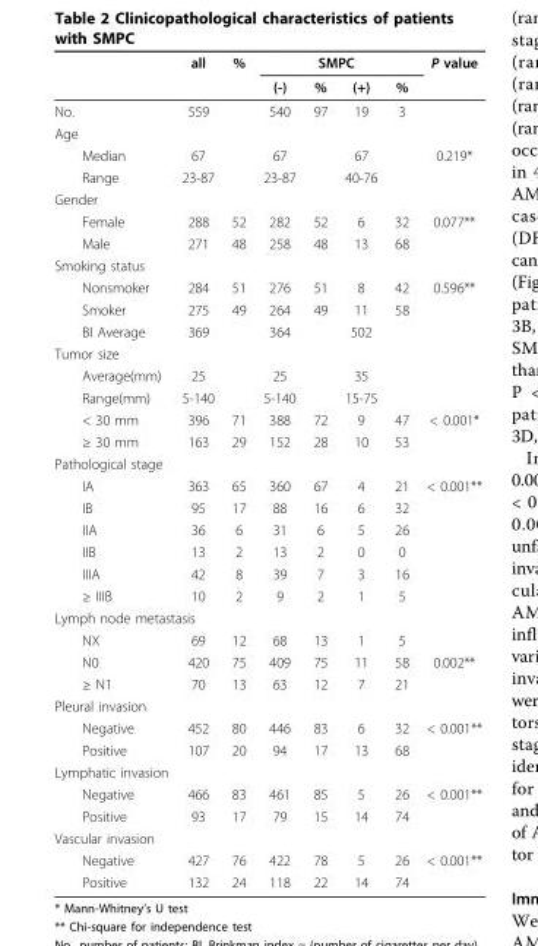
<table><thead><tr><td rowspan="2"></td><td rowspan="2">all</td><td rowspan="2">%</td><td colspan="4">SMPC</td><td rowspan="2">P value</td></tr><tr><td>(-)</td><td>%</td><td>(+)</td><td>%</td></tr></thead><tbody><tr><td>No.</td><td>559</td><td></td><td>540</td><td>97</td><td>19</td><td>3</td><td></td></tr><tr><td colspan="8">Age</td></tr><tr><td>Median</td><td>67</td><td></td><td>67</td><td></td><td>67</td><td></td><td>0.219*</td></tr><tr><td>Range</td><td>23-87</td><td></td><td>23-87</td><td></td><td>40-76</td><td></td><td></td></tr><tr><td colspan="8">Gender</td></tr><tr><td>Female</td><td>288</td><td>52</td><td>282</td><td>52</td><td>6</td><td>32</td><td>0.077**</td></tr><tr><td>Male</td><td>271</td><td>48</td><td>258</td><td>48</td><td>13</td><td>68</td><td></td></tr><tr><td colspan="8">Smoking status</td></tr><tr><td>Nonsmoker</td><td>284</td><td>51</td><td>276</td><td>51</td><td>8</td><td>42</td><td>0.596**</td></tr><tr><td>Smoker</td><td>275</td><td>49</td><td>264</td><td>49</td><td>11</td><td>58</td><td></td></tr><tr><td>BI Average</td><td>369</td><td></td><td>364</td><td></td><td>502</td><td></td><td></td></tr><tr><td colspan="8">Tumor size</td></tr><tr><td>Average(mm)</td><td>25</td><td></td><td>25</td><td></td><td>35</td><td></td><td></td></tr><tr><td>Range(mm)</td><td>5-140</td><td></td><td>5-140</td><td></td><td>15-75</td><td></td><td></td></tr><tr><td>&lt; 30 mm</td><td>396</td><td>71</td><td>388</td><td>72</td><td>9</td><td>47</td><td>&lt; 0.001*</td></tr><tr><td>≥ 30 mm</td><td>163</td><td>29</td><td>152</td><td>28</td><td>10</td><td>53</td><td></td></tr><tr><td colspan="8">Pathological stage</td></tr><tr><td>IA</td><td>363</td><td>65</td><td>360</td><td>67</td><td>4</td><td>21</td><td>&lt; 0.001**</td></tr><tr><td>IB</td><td>95</td><td>17</td><td>88</td><td>16</td><td>6</td><td>32</td><td></td></tr><tr><td>IIA</td><td>36</td><td>6</td><td>31</td><td>6</td><td>5</td><td>26</td><td></td></tr><tr><td>IIB</td><td>13</td><td>2</td><td>13</td><td>2</td><td>0</td><td>0</td><td></td></tr><tr><td>IIIA</td><td>42</td><td>8</td><td>39</td><td>7</td><td>3</td><td>16</td><td></td></tr><tr><td>≥ IIIB</td><td>10</td><td>2</td><td>9</td><td>2</td><td>1</td><td>5</td><td></td></tr><tr><td colspan="8">Lymph node metastasis</td></tr><tr><td>NX</td><td>69</td><td>12</td><td>68</td><td>13</td><td>1</td><td>5</td><td></td></tr><tr><td>N0</td><td>420</td><td>75</td><td>409</td><td>75</td><td>11</td><td>58</td><td>0.002**</td></tr><tr><td>≥ N1</td><td>70</td><td>13</td><td>63</td><td>12</td><td>7</td><td>21</td><td></td></tr><tr><td colspan="8">Pleural invasion</td></tr><tr><td>Negative</td><td>452</td><td>80</td><td>446</td><td>83</td><td>6</td><td>32</td><td>&lt; 0.001**</td></tr><tr><td>Positive</td><td>107</td><td>20</td><td>94</td><td>17</td><td>13</td><td>68</td><td></td></tr><tr><td colspan="8">Lymphatic invasion</td></tr><tr><td>Negative</td><td>466</td><td>83</td><td>461</td><td>85</td><td>5</td><td>26</td><td>&lt; 0.001**</td></tr><tr><td>Positive</td><td>93</td><td>17</td><td>79</td><td>15</td><td>14</td><td>74</td><td></td></tr><tr><td colspan="8">Vascular invasion</td></tr><tr><td>Negative</td><td>427</td><td>76</td><td>422</td><td>78</td><td>5</td><td>26</td><td>&lt; 0.001**</td></tr><tr><td>Positive</td><td>132</td><td>24</td><td>118</td><td>22</td><td>14</td><td>74</td><td></td></tr></tbody></table>